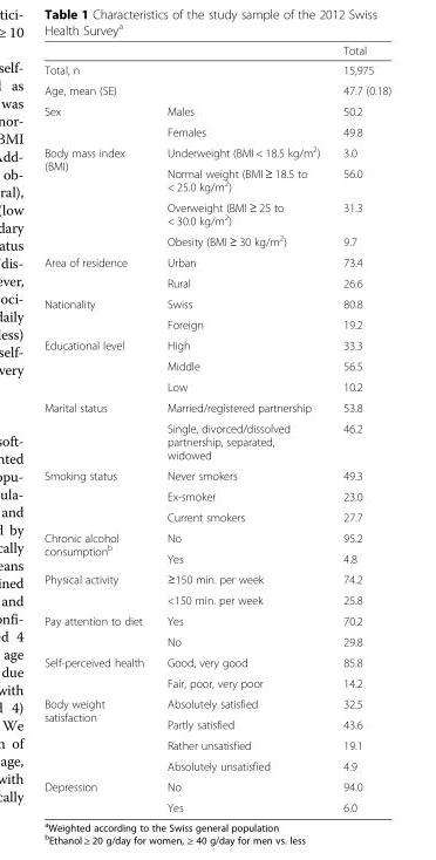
<table><thead><tr><td></td><td></td><td>Total</td></tr></thead><tbody><tr><td>Total, n</td><td></td><td>15,975</td></tr><tr><td>Age, mean (SE)</td><td></td><td>47.7 (0.18)</td></tr><tr><td rowspan="2">Sex</td><td>Males</td><td>50.2</td></tr><tr><td>Females</td><td>49.8</td></tr><tr><td rowspan="4">Body mass index (BMI)</td><td>Underweight (BMI &lt; 18.5 kg/m<sup>2</sup>)</td><td>3.0</td></tr><tr><td>Normal weight (BMI ≥ 18.5 to &lt; 25.0 kg/m<sup>2</sup>)</td><td>56.0</td></tr><tr><td>Overweight (BMI ≥ 25 to &lt; 30.0 kg/m<sup>2</sup>)</td><td>31.3</td></tr><tr><td>Obesity (BMI ≥ 30 kg/m<sup>2</sup>)</td><td>9.7</td></tr><tr><td rowspan="2">Area of residence</td><td>Urban</td><td>73.4</td></tr><tr><td>Rural</td><td>26.6</td></tr><tr><td rowspan="2">Nationality</td><td>Swiss</td><td>80.8</td></tr><tr><td>Foreign</td><td>19.2</td></tr><tr><td rowspan="3">Educational level</td><td>High</td><td>33.3</td></tr><tr><td>Middle</td><td>56.5</td></tr><tr><td>Low</td><td>10.2</td></tr><tr><td rowspan="2">Marital status</td><td>Married/registered partnership</td><td>53.8</td></tr><tr><td>Single, divorced/dissolved partnership, separated, widowed</td><td>46.2</td></tr><tr><td rowspan="3">Smoking status</td><td>Never smokers</td><td>49.3</td></tr><tr><td>Ex-smoker</td><td>23.0</td></tr><tr><td>Current smokers</td><td>27.7</td></tr><tr><td rowspan="2">Chronic alcohol consumption<sup>b</sup></td><td>No</td><td>95.2</td></tr><tr><td>Yes</td><td>4.8</td></tr><tr><td rowspan="2">Physical activity</td><td>≥150 min. per week</td><td>74.2</td></tr><tr><td>&lt;150 min. per week</td><td>25.8</td></tr><tr><td rowspan="2">Pay attention to diet</td><td>Yes</td><td>70.2</td></tr><tr><td>No</td><td>29.8</td></tr><tr><td rowspan="2">Self-perceived health</td><td>Good, very good</td><td>85.8</td></tr><tr><td>Fair, poor, very poor</td><td>14.2</td></tr><tr><td rowspan="4">Body weight satisfaction</td><td>Absolutely satisfied</td><td>32.5</td></tr><tr><td>Partly satisfied</td><td>43.6</td></tr><tr><td>Rather unsatisfied</td><td>19.1</td></tr><tr><td>Absolutely unsatisfied</td><td>4.9</td></tr><tr><td rowspan="2">Depression</td><td>No</td><td>94.0</td></tr><tr><td>Yes</td><td>6.0</td></tr></tbody></table>